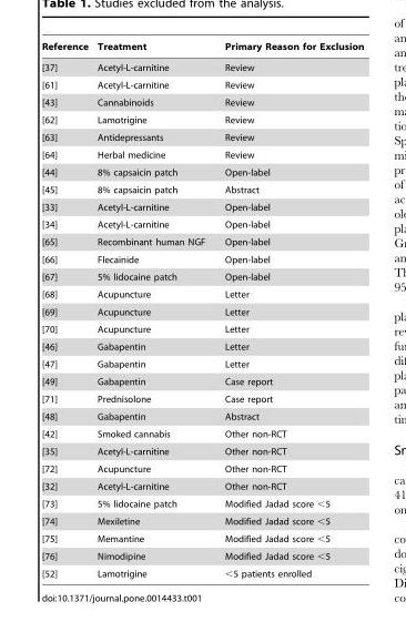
<table><thead><tr><td>Reference</td><td>Treatment</td><td>Primary Reason for Exclusion</td></tr></thead><tbody><tr><td>[37]</td><td>Acetyl-L-carnitine</td><td>Review</td></tr><tr><td>[61]</td><td>Acetyl-L-carnitine</td><td>Review</td></tr><tr><td>[43]</td><td>Cannabinoids</td><td>Review</td></tr><tr><td>[62]</td><td>Lamotrigine</td><td>Review</td></tr><tr><td>[63]</td><td>Antidepressants</td><td>Review</td></tr><tr><td>[64]</td><td>Herbal medicine</td><td>Review</td></tr><tr><td>[44]</td><td>8% capsaicin patch</td><td>Open-label</td></tr><tr><td>[45]</td><td>8% capsaicin patch</td><td>Abstract</td></tr><tr><td>[33]</td><td>Acetyl-L-carnitine</td><td>Open-label</td></tr><tr><td>[34]</td><td>Acetyl-L-carnitine</td><td>Open-label</td></tr><tr><td>[65]</td><td>Recombinant human NGF</td><td>Open-label</td></tr><tr><td>[66]</td><td>Flecainide</td><td>Open-label</td></tr><tr><td>[67]</td><td>5% lidocaine patch</td><td>Open-label</td></tr><tr><td>[68]</td><td>Acupuncture</td><td>Letter</td></tr><tr><td>[69]</td><td>Acupuncture</td><td>Letter</td></tr><tr><td>[70]</td><td>Acupuncture</td><td>Letter</td></tr><tr><td>[46]</td><td>Gabapentin</td><td>Letter</td></tr><tr><td>[47]</td><td>Gabapentin</td><td>Letter</td></tr><tr><td>[49]</td><td>Gabapentin</td><td>Case report</td></tr><tr><td>[71]</td><td>Prednisolone</td><td>Case report</td></tr><tr><td>[48]</td><td>Gabapentin</td><td>Abstract</td></tr><tr><td>[42]</td><td>Smoked cannabis</td><td>Other non-RCT</td></tr><tr><td>[35]</td><td>Acetyl-L-carnitine</td><td>Other non-RCT</td></tr><tr><td>[72]</td><td>Acupuncture</td><td>Other non-RCT</td></tr><tr><td>[32]</td><td>Acetyl-L-carnitine</td><td>Other non-RCT</td></tr><tr><td>[73]</td><td>5% lidocaine patch</td><td>Modified Jadad score &lt;5</td></tr><tr><td>[74]</td><td>Mexiletine</td><td>Modified Jadad score &lt;5</td></tr><tr><td>[75]</td><td>Memantine</td><td>Modified Jadad score &lt;5</td></tr><tr><td>[76]</td><td>Nimodipine</td><td>Modified Jadad score &lt;5</td></tr><tr><td>[52]</td><td>Lamotrigine</td><td>&lt;5 patients enrolled</td></tr></tbody></table>